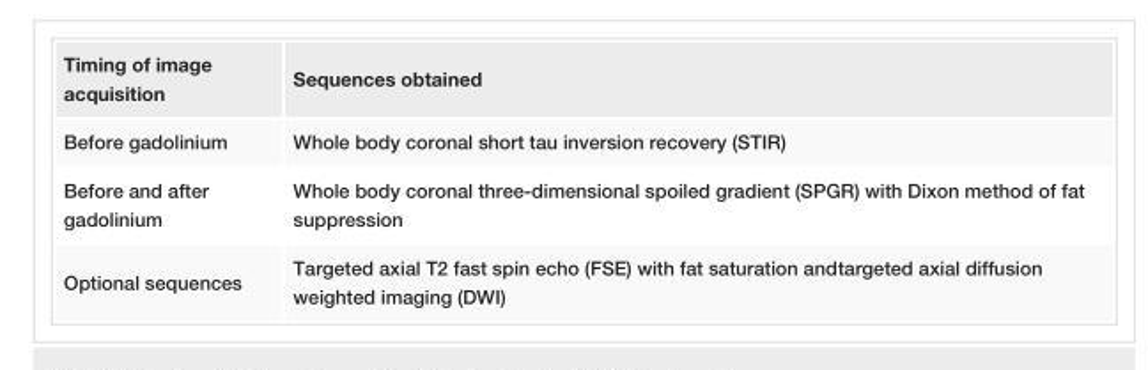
<table><tbody><tr><td>Timing of image acquisition</td><td>Sequences obtained</td></tr><tr><td>Before gadolinium</td><td>Whole body coronal short tau inversion recovery (STIR)</td></tr><tr><td>Before and after gadolinium</td><td>Whole body coronal three-dimensional spoiled gradient (SPGR) with Dixon method of fat suppression</td></tr><tr><td>Optional sequences</td><td>Targeted axial T2 fast spin echo (FSE) with fat saturation and targeted axial diffusion weighted imaging (DWI)</td></tr></tbody></table>